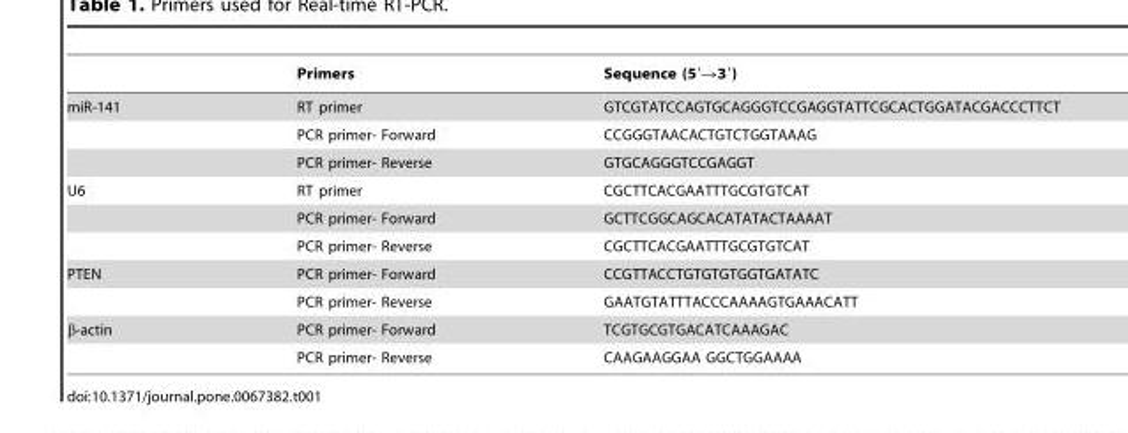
<table><thead><tr><td></td><td>Primers</td><td>Sequence (5′→3′)</td></tr></thead><tbody><tr><td rowspan="3">miR-141</td><td>RT primer</td><td>GTCGTATCCAGTGCAGGGTCCGAGGTATTCGCACTGGATACGACCCTTCT</td></tr><tr><td>PCR primer- Forward</td><td>CCGGGTAACACTGTCTGGTAAAG</td></tr><tr><td>PCR primer- Reverse</td><td>GTGCAGGGTCCGAGGT</td></tr><tr><td rowspan="3">U6</td><td>RT primer</td><td>CGCTTCACGAATTTGCGTGTCAT</td></tr><tr><td>PCR primer- Forward</td><td>GCTTCGGCAGCACATATACTAAAAT</td></tr><tr><td>PCR primer- Reverse</td><td>CGCTTCACGAATTTGCGTGTCAT</td></tr><tr><td rowspan="2">PTEN</td><td>PCR primer- Forward</td><td>CCGTTACCTGTGTGTGGTGATATC</td></tr><tr><td>PCR primer- Reverse</td><td>GAATGTATTTACCCAAAAGTGAAACATT</td></tr><tr><td rowspan="2">β-actin</td><td>PCR primer- Forward</td><td>TCGTGCGTGACATCAAAGAC</td></tr><tr><td>PCR primer- Reverse</td><td>CAAGAAGGAA GGCTGGAAAA</td></tr></tbody></table>